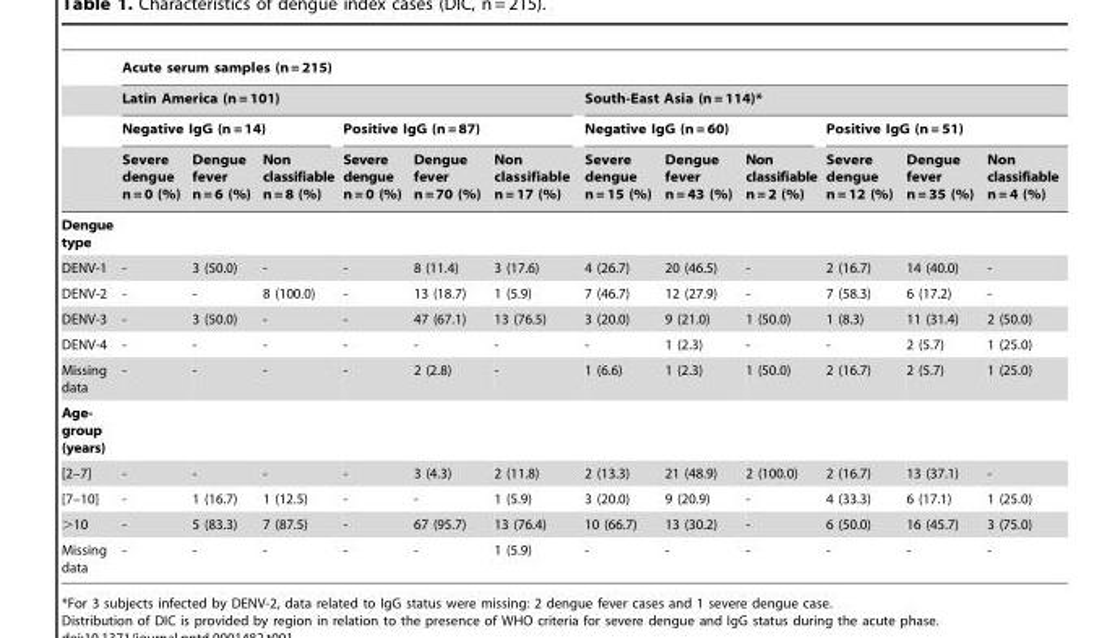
<table><thead><tr><td rowspan="4"></td><td colspan="12">Acute serum samples (n = 215)</td></tr><tr><td colspan="6">Latin America (n = 101)</td><td colspan="6">South-East Asia (n = 114)*</td></tr><tr><td colspan="3">Negative IgG (n = 14)</td><td colspan="3">Positive IgG (n = 87)</td><td colspan="3">Negative IgG (n = 60)</td><td colspan="3">Positive IgG (n = 51)</td></tr><tr><td>Severe dengue n = 0 (%)</td><td>Dengue fever n = 6 (%)</td><td>Non classifiable n = 8 (%)</td><td>Severe dengue n = 0 (%)</td><td>Dengue fever n = 70 (%)</td><td>Non classifiable n = 17 (%)</td><td>Severe dengue n = 15 (%)</td><td>Dengue fever n = 43 (%)</td><td>Non classifiable n = 2 (%)</td><td>Severe dengue n = 12 (%)</td><td>Dengue fever n = 35 (%)</td><td>Non classifiable n = 4 (%)</td></tr></thead><tbody><tr><td colspan="13">Dengue type</td></tr><tr><td>DENV-1</td><td>-</td><td>3 (50.0)</td><td>-</td><td>-</td><td>8 (11.4)</td><td>3 (17.6)</td><td>4 (26.7)</td><td>20 (46.5)</td><td>-</td><td>2 (16.7)</td><td>14 (40.0)</td><td>-</td></tr><tr><td>DENV-2</td><td>-</td><td>-</td><td>8 (100.0)</td><td>-</td><td>13 (18.7)</td><td>1 (5.9)</td><td>7 (46.7)</td><td>12 (27.9)</td><td>-</td><td>7 (58.3)</td><td>6 (17.2)</td><td>-</td></tr><tr><td>DENV-3</td><td>-</td><td>3 (50.0)</td><td>-</td><td>-</td><td>47 (67.1)</td><td>13 (76.5)</td><td>3 (20.0)</td><td>9 (21.0)</td><td>1 (50.0)</td><td>1 (8.3)</td><td>11 (31.4)</td><td>2 (50.0)</td></tr><tr><td>DENV-4</td><td>-</td><td>-</td><td>-</td><td>-</td><td>-</td><td>-</td><td>-</td><td>1 (2.3)</td><td>-</td><td>-</td><td>2 (5.7)</td><td>1 (25.0)</td></tr><tr><td>Missing data</td><td>-</td><td>-</td><td>-</td><td>-</td><td>2 (2.8)</td><td>-</td><td>1 (6.6)</td><td>1 (2.3)</td><td>1 (50.0)</td><td>2 (16.7)</td><td>2 (5.7)</td><td>1 (25.0)</td></tr><tr><td colspan="13">Age- group (years)</td></tr><tr><td>[2–7]</td><td>-</td><td>-</td><td>-</td><td>-</td><td>3 (4.3)</td><td>2 (11.8)</td><td>2 (13.3)</td><td>21 (48.9)</td><td>2 (100.0)</td><td>2 (16.7)</td><td>13 (37.1)</td><td>-</td></tr><tr><td>[7–10]</td><td>-</td><td>1 (16.7)</td><td>1 (12.5)</td><td>-</td><td>-</td><td>1 (5.9)</td><td>3 (20.0)</td><td>9 (20.9)</td><td>-</td><td>4 (33.3)</td><td>6 (17.1)</td><td>1 (25.0)</td></tr><tr><td>&gt;10</td><td>-</td><td>5 (83.3)</td><td>7 (87.5)</td><td>-</td><td>67 (95.7)</td><td>13 (76.4)</td><td>10 (66.7)</td><td>13 (30.2)</td><td>-</td><td>6 (50.0)</td><td>16 (45.7)</td><td>3 (75.0)</td></tr><tr><td>Missing data</td><td>-</td><td>-</td><td>-</td><td>-</td><td>-</td><td>1 (5.9)</td><td>-</td><td>-</td><td>-</td><td>-</td><td>-</td><td>-</td></tr></tbody></table>